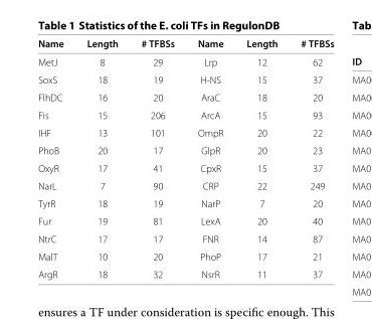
<table><thead><tr><td>Name</td><td>Length</td><td># TFBSs</td><td>Name</td><td>Length</td><td># TFBSs</td></tr></thead><tbody><tr><td>MetJ</td><td>8</td><td>29</td><td>Lrp</td><td>12</td><td>62</td></tr><tr><td>SoxS</td><td>18</td><td>19</td><td>H-NS</td><td>15</td><td>37</td></tr><tr><td>FlhDC</td><td>16</td><td>20</td><td>AraC</td><td>18</td><td>20</td></tr><tr><td>Fis</td><td>15</td><td>206</td><td>ArcA</td><td>15</td><td>93</td></tr><tr><td>IHF</td><td>13</td><td>101</td><td>OmpR</td><td>20</td><td>22</td></tr><tr><td>PhoB</td><td>20</td><td>17</td><td>GlpR</td><td>20</td><td>23</td></tr><tr><td>OxyR</td><td>17</td><td>41</td><td>CpxR</td><td>15</td><td>37</td></tr><tr><td>NarL</td><td>7</td><td>90</td><td>CRP</td><td>22</td><td>249</td></tr><tr><td>TyrR</td><td>18</td><td>19</td><td>NarP</td><td>7</td><td>20</td></tr><tr><td>Fur</td><td>19</td><td>81</td><td>LexA</td><td>20</td><td>40</td></tr><tr><td>NtrC</td><td>17</td><td>17</td><td>FNR</td><td>14</td><td>87</td></tr><tr><td>MalT</td><td>10</td><td>20</td><td>PhoP</td><td>17</td><td>21</td></tr><tr><td>ArgR</td><td>18</td><td>32</td><td>NsrR</td><td>11</td><td>37</td></tr></tbody></table>